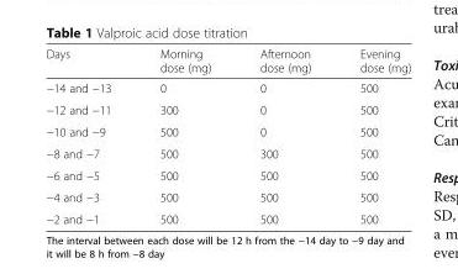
<table><thead><tr><td>Days</td><td>Morning dose (mg)</td><td>Afternoon dose (mg)</td><td>Evening dose (mg)</td></tr></thead><tbody><tr><td>−14 and −13</td><td>0</td><td>0</td><td>500</td></tr><tr><td>−12 and −11</td><td>300</td><td>0</td><td>500</td></tr><tr><td>−10 and −9</td><td>500</td><td>0</td><td>500</td></tr><tr><td>−8 and −7</td><td>500</td><td>300</td><td>500</td></tr><tr><td>−6 and −5</td><td>500</td><td>500</td><td>500</td></tr><tr><td>−4 and −3</td><td>500</td><td>500</td><td>500</td></tr><tr><td>−2 and −1</td><td>500</td><td>500</td><td>500</td></tr></tbody></table>